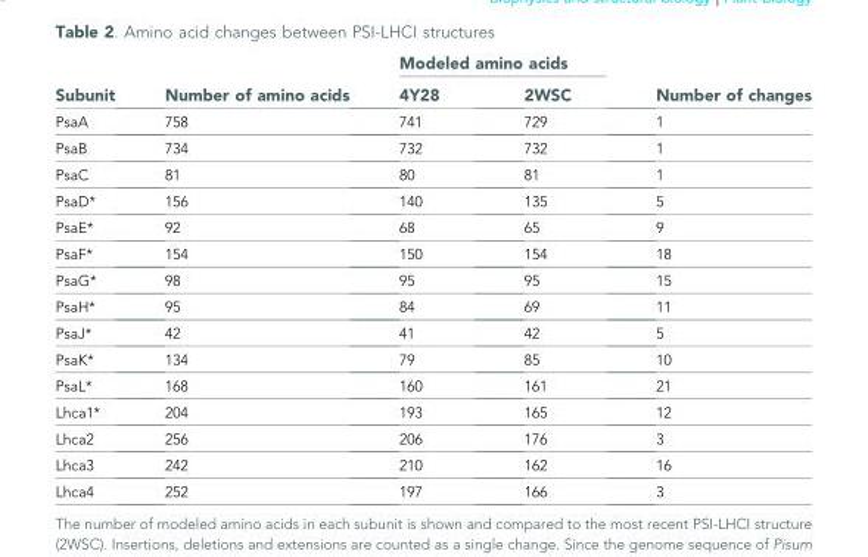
<table><thead><tr><td rowspan="2">Subunit</td><td rowspan="2">Number of amino acids</td><td colspan="2">Modeled amino acids</td><td rowspan="2">Number of changes</td></tr><tr><td>4Y28</td><td>2WSC</td></tr></thead><tbody><tr><td>PsaA</td><td>758</td><td>741</td><td>729</td><td>1</td></tr><tr><td>PsaB</td><td>734</td><td>732</td><td>732</td><td>1</td></tr><tr><td>PsaC</td><td>81</td><td>80</td><td>81</td><td>1</td></tr><tr><td>PsaD*</td><td>156</td><td>140</td><td>135</td><td>5</td></tr><tr><td>PsaE*</td><td>92</td><td>68</td><td>65</td><td>9</td></tr><tr><td>PsaF*</td><td>154</td><td>150</td><td>154</td><td>18</td></tr><tr><td>PsaG*</td><td>98</td><td>95</td><td>95</td><td>15</td></tr><tr><td>PsaH*</td><td>95</td><td>84</td><td>69</td><td>11</td></tr><tr><td>PsaJ*</td><td>42</td><td>41</td><td>42</td><td>5</td></tr><tr><td>PsaK*</td><td>134</td><td>79</td><td>85</td><td>10</td></tr><tr><td>PsaL*</td><td>168</td><td>160</td><td>161</td><td>21</td></tr><tr><td>Lhca1*</td><td>204</td><td>193</td><td>165</td><td>12</td></tr><tr><td>Lhca2</td><td>256</td><td>206</td><td>176</td><td>3</td></tr><tr><td>Lhca3</td><td>242</td><td>210</td><td>162</td><td>16</td></tr><tr><td>Lhca4</td><td>252</td><td>197</td><td>166</td><td>3</td></tr></tbody></table>